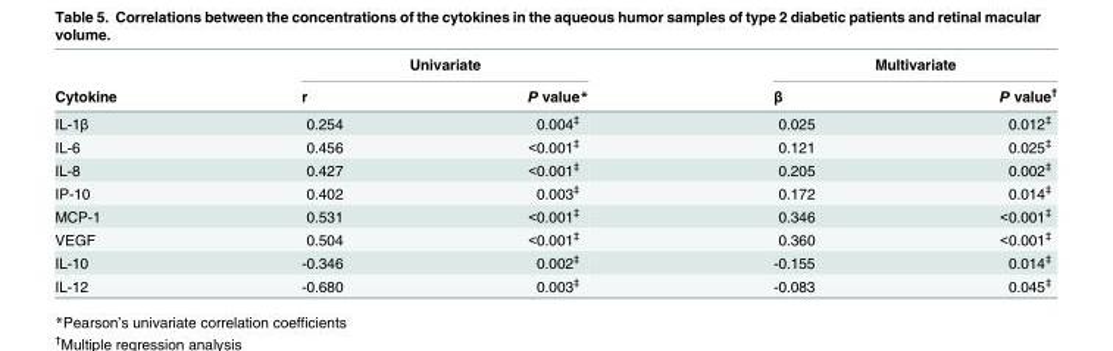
<table><thead><tr><td rowspan="2">Cytokine</td><td colspan="2">Univariate</td><td colspan="2">Multivariate</td></tr><tr><td>r</td><td>P value*</td><td>β</td><td>P value<sup>†</sup></td></tr></thead><tbody><tr><td>IL-1β</td><td>0.254</td><td>0.004<sup>‡</sup></td><td>0.025</td><td>0.012<sup>‡</sup></td></tr><tr><td>IL-6</td><td>0.456</td><td>&lt;0.001<sup>‡</sup></td><td>0.121</td><td>0.025<sup>‡</sup></td></tr><tr><td>IL-8</td><td>0.427</td><td>&lt;0.001<sup>‡</sup></td><td>0.205</td><td>0.002<sup>‡</sup></td></tr><tr><td>IP-10</td><td>0.402</td><td>0.003<sup>‡</sup></td><td>0.172</td><td>0.014<sup>‡</sup></td></tr><tr><td>MCP-1</td><td>0.531</td><td>&lt;0.001<sup>‡</sup></td><td>0.346</td><td>&lt;0.001<sup>‡</sup></td></tr><tr><td>VEGF</td><td>0.504</td><td>&lt;0.001<sup>‡</sup></td><td>0.360</td><td>&lt;0.001<sup>‡</sup></td></tr><tr><td>IL-10</td><td>-0.346</td><td>0.002<sup>‡</sup></td><td>-0.155</td><td>0.014<sup>‡</sup></td></tr><tr><td>IL-12</td><td>-0.680</td><td>0.003<sup>‡</sup></td><td>-0.083</td><td>0.045<sup>‡</sup></td></tr></tbody></table>